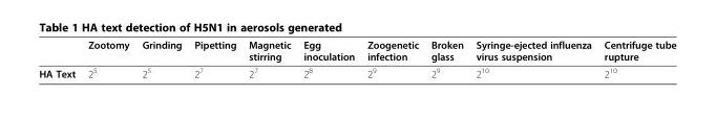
<table><thead><tr><td></td><td>Zootomy</td><td>Grinding</td><td>Pipetting</td><td>Magnetic stirring</td><td>Egg inoculation</td><td>Zoogenetic infection</td><td>Broken glass</td><td>Syringe-ejected influenza virus suspension</td><td>Centrifuge tube rupture</td></tr></thead><tbody><tr><td>HA Text</td><td>2<sup>5</sup></td><td>2<sup>5</sup></td><td>2<sup>7</sup></td><td>2<sup>7</sup></td><td>2<sup>8</sup></td><td>2<sup>9</sup></td><td>2<sup>9</sup></td><td>2<sup>10</sup></td><td>2<sup>10</sup></td></tr></tbody></table>